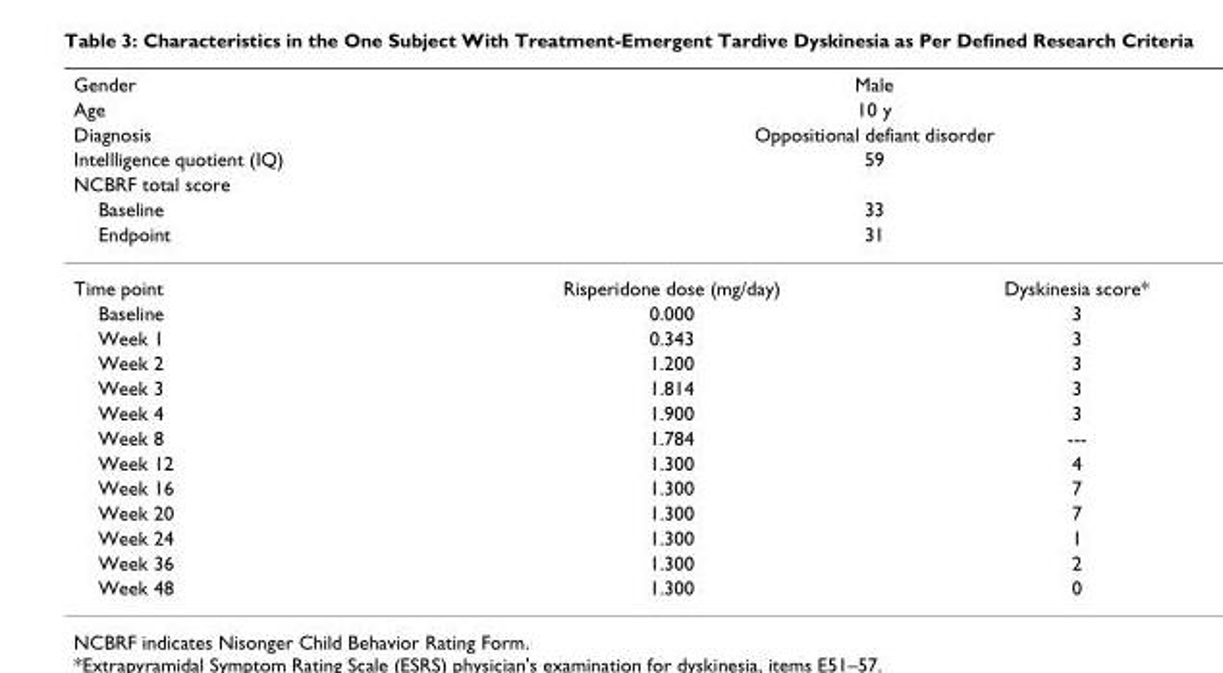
<table><thead><tr><td rowspan="7">Gender Age Diagnosis Intellligence quotient (IQ) NCBRF total score Baseline Endpoint</td><td rowspan="4" colspan="2">Male 10 y Oppositional defiant disorder 59</td></tr><tr></tr><tr></tr><tr></tr><tr><td></td><td></td></tr><tr><td rowspan="2" colspan="2">33 31</td></tr><tr></tr></thead><tbody><tr><td>Time point</td><td>Risperidone dose (mg/day)</td><td>Dyskinesia score*</td></tr><tr><td>Baseline</td><td>0.000</td><td>3</td></tr><tr><td>Week 1</td><td>0.343</td><td>3</td></tr><tr><td>Week 2</td><td>1.200</td><td>3</td></tr><tr><td>Week 3</td><td>1.814</td><td>3</td></tr><tr><td>Week 4</td><td>1.900</td><td>3</td></tr><tr><td>Week 8</td><td>1.784</td><td>---</td></tr><tr><td>Week 12</td><td>1.300</td><td>4</td></tr><tr><td>Week 16</td><td>1.300</td><td>7</td></tr><tr><td>Week 20</td><td>1.300</td><td>7</td></tr><tr><td>Week 24</td><td>1.300</td><td>1</td></tr><tr><td>Week 36</td><td>1.300</td><td>2</td></tr><tr><td>Week 48</td><td>1.300</td><td>0</td></tr></tbody></table>